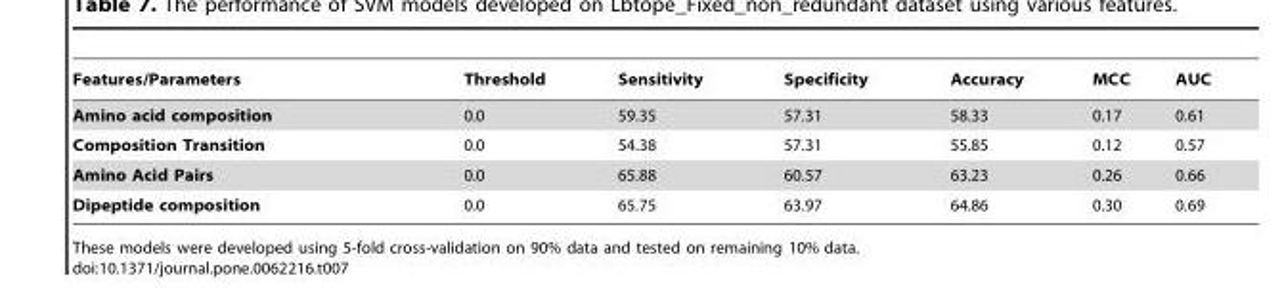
<table><thead><tr><td>Features/Parameters</td><td>Threshold</td><td>Sensitivity</td><td>Specificity</td><td>Accuracy</td><td>MCC</td><td>AUC</td></tr></thead><tbody><tr><td>Amino acid composition</td><td>0.0</td><td>59.35</td><td>57.31</td><td>58.33</td><td>0.17</td><td>0.61</td></tr><tr><td>Composition Transition</td><td>0.0</td><td>54.38</td><td>57.31</td><td>55.85</td><td>0.12</td><td>0.57</td></tr><tr><td>Amino Acid Pairs</td><td>0.0</td><td>65.88</td><td>60.57</td><td>63.23</td><td>0.26</td><td>0.66</td></tr><tr><td>Dipeptide composition</td><td>0.0</td><td>65.75</td><td>63.97</td><td>64.86</td><td>0.30</td><td>0.69</td></tr></tbody></table>